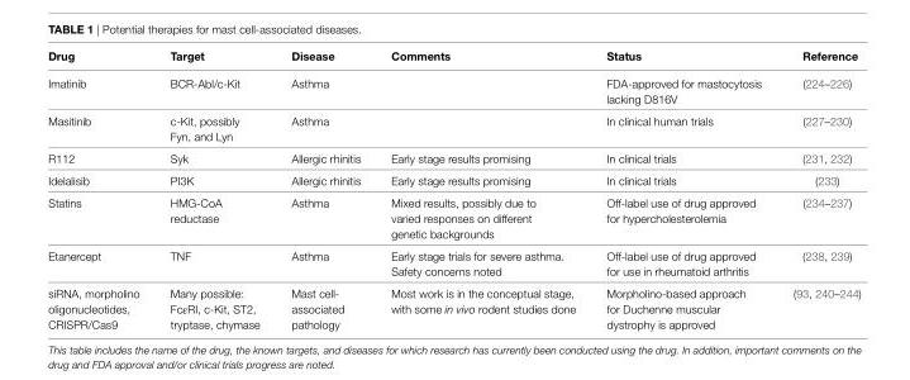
<table><thead><tr><td>Drug</td><td>Target</td><td>Disease</td><td>Comments</td><td>Status</td><td>Reference</td></tr></thead><tbody><tr><td>Imatinib</td><td>BCR-Abl/c-Kit</td><td>Asthma</td><td></td><td>FDA-approved for mastocytosis lacking D816V</td><td>(224–226)</td></tr><tr><td>Masitinib</td><td>c-Kit, possibly Fyn, and Lyn</td><td>Asthma</td><td></td><td>In clinical human trials</td><td>(227–230)</td></tr><tr><td>R112</td><td>Syk</td><td>Allergic rhinitis</td><td>Early stage results promising</td><td>In clinical trials</td><td>(231, 232)</td></tr><tr><td>Idelalisib</td><td>PI3K</td><td>Allergic rhinitis</td><td>Early stage results promising</td><td>In clinical trials</td><td>(233)</td></tr><tr><td>Statins</td><td>HMG-CoA reductase</td><td>Asthma</td><td>Mixed results, possibly due to varied responses on different genetic backgrounds</td><td>Off-label use of drug approved for hypercholesterolemia</td><td>(234–237)</td></tr><tr><td>Etanercept</td><td>TNF</td><td>Asthma</td><td>Early stage trials for severe asthma. Safety concerns noted</td><td>Off-label use of drug approved for use in rheumatoid arthritis</td><td>(238, 239)</td></tr><tr><td>siRNA, morpholino oligonucleotides, CRISPR/Cas9</td><td>Many possible: FcεRI, c-Kit, ST2, tryptase, chymase</td><td>Mast cell- associated pathology</td><td>Most work is in the conceptual stage, with some in vivo rodent studies done</td><td>Morpholino-based approach for Duchenne muscular dystrophy is approved</td><td>(93, 240–244)</td></tr></tbody></table>